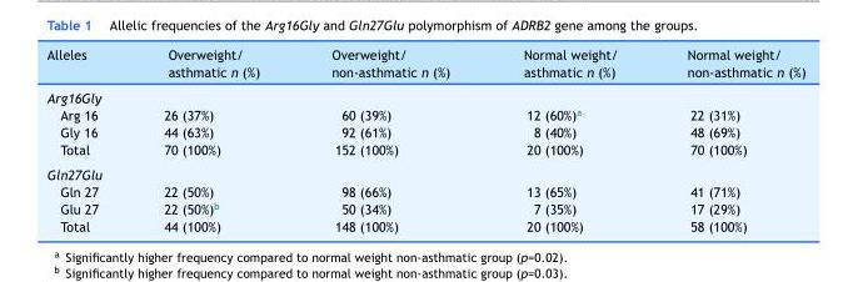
<table><thead><tr><td>Alleles</td><td>Overweight/ asthmatic n (%)</td><td>Overweight/ non-asthmatic n (%)</td><td>Normal weight/ asthmatic n (%)</td><td>Normal weight/ non-asthmatic n (%)</td></tr></thead><tbody><tr><td colspan="5">Arg16Gly</td></tr><tr><td>Arg 16</td><td>26 (37%)</td><td>60 (39%)</td><td>12 (60%)<sup>a</sup></td><td>22 (31%)</td></tr><tr><td>Gly 16</td><td>44 (63%)</td><td>92 (61%)</td><td>8 (40%)</td><td>48 (69%)</td></tr><tr><td>Total</td><td>70 (100%)</td><td>152 (100%)</td><td>20 (100%)</td><td>70 (100%)</td></tr><tr><td colspan="5">Gln27Glu</td></tr><tr><td>Gln 27</td><td>22 (50%)</td><td>98 (66%)</td><td>13 (65%)</td><td>41 (71%)</td></tr><tr><td>Glu 27</td><td>22 (50%)<sup>b</sup></td><td>50 (34%)</td><td>7 (35%)</td><td>17 (29%)</td></tr><tr><td>Total</td><td>44 (100%)</td><td>148 (100%)</td><td>20 (100%)</td><td>58 (100%)</td></tr></tbody></table>